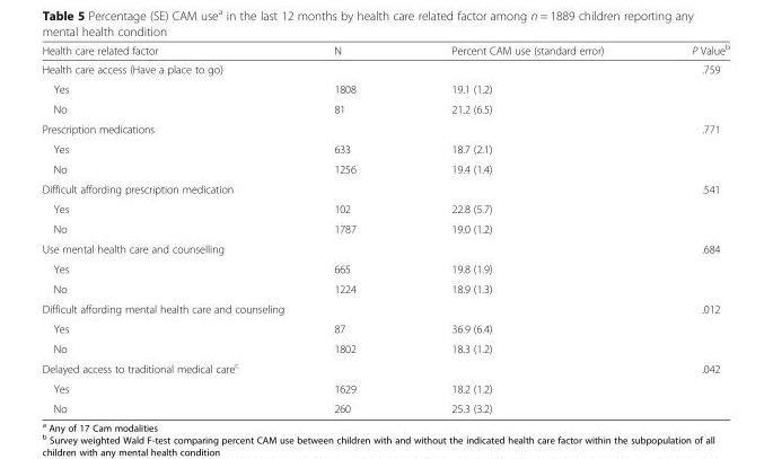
<table><thead><tr><td>Health care related factor</td><td>N</td><td>Percent CAM use (standard error)</td><td>P Value<sup>b</sup></td></tr></thead><tbody><tr><td>Health care access (Have a place to go)</td><td></td><td></td><td>.759</td></tr><tr><td>Yes</td><td>1808</td><td>19.1 (1.2)</td><td></td></tr><tr><td>No</td><td>81</td><td>21.2 (6.5)</td><td></td></tr><tr><td>Prescription medications</td><td></td><td></td><td>.771</td></tr><tr><td>Yes</td><td>633</td><td>18.7 (2.1)</td><td></td></tr><tr><td>No</td><td>1256</td><td>19.4 (1.4)</td><td></td></tr><tr><td>Difficult affording prescription medication</td><td></td><td></td><td>.541</td></tr><tr><td>Yes</td><td>102</td><td>22.8 (5.7)</td><td></td></tr><tr><td>No</td><td>1787</td><td>19.0 (1.2)</td><td></td></tr><tr><td>Use mental health care and counselling</td><td></td><td></td><td>.684</td></tr><tr><td>Yes</td><td>665</td><td>19.8 (1.9)</td><td></td></tr><tr><td>No</td><td>1224</td><td>18.9 (1.3)</td><td></td></tr><tr><td colspan="2">Difficult affording mental health care and counseling</td><td></td><td>.012</td></tr><tr><td>Yes</td><td>87</td><td>36.9 (6.4)</td><td></td></tr><tr><td>No</td><td>1802</td><td>18.3 (1.2)</td><td></td></tr><tr><td>Delayed access to traditional medical care<sup>c</sup></td><td></td><td></td><td>.042</td></tr><tr><td>Yes</td><td>1629</td><td>18.2 (1.2)</td><td></td></tr><tr><td>No</td><td>260</td><td>25.3 (3.2)</td><td></td></tr></tbody></table>